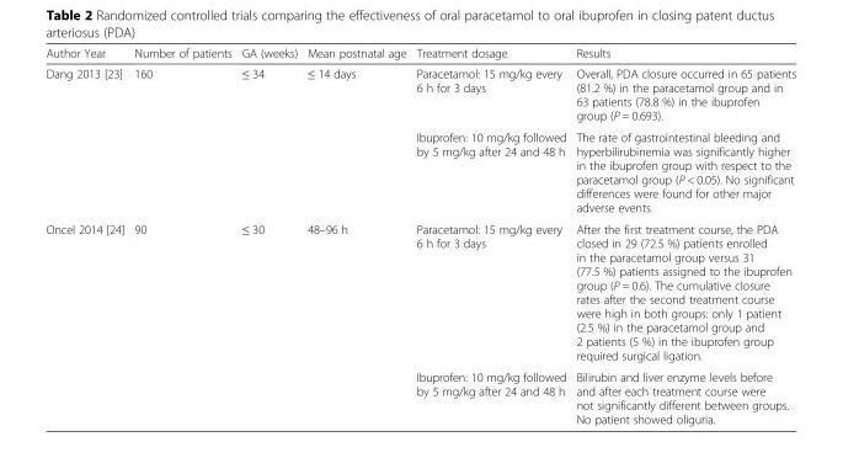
<table><thead><tr><td>Author Year</td><td>Number of patients</td><td>GA (weeks)</td><td>Mean postnatal age</td><td>Treatment dosage</td><td>Results</td></tr></thead><tbody><tr><td rowspan="2">Dang 2013 [23]</td><td rowspan="2">160</td><td rowspan="2">≤ 34</td><td rowspan="2">≤ 14 days</td><td>Paracetamol: 15 mg/kg every 6 h for 3 days</td><td>Overall, PDA closure occurred in 65 patients (81.2 %) in the paracetamol group and in 63 patients (78.8 %) in the ibuprofen group (P = 0.693).</td></tr><tr><td>Ibuprofen: 10 mg/kg followed by 5 mg/kg after 24 and 48 h</td><td>The rate of gastrointestinal bleeding and hyperbilirubinemia was significantly higher in the ibuprofen group with respect to the paracetamol group (P &lt; 0.05). No significant differences were found for other major adverse events.</td></tr><tr><td rowspan="2">Oncel 2014 [24]</td><td rowspan="2">90</td><td rowspan="2">≤ 30</td><td rowspan="2">48–96 h</td><td>Paracetamol: 15 mg/kg every 6 h for 3 days</td><td>After the first treatment course, the PDA closed in 29 (72.5 %) patients enrolled in the paracetamol group versus 31 (77.5 %) patients assigned to the ibuprofen group (P = 0.6). The cumulative closure rates after the second treatment course were high in both groups: only 1 patient (2.5 %) in the paracetamol group and 2 patients (5 %) in the ibuprofen group required surgical ligation.</td></tr><tr><td>Ibuprofen: 10 mg/kg followed by 5 mg/kg after 24 and 48 h</td><td>Bilirubin and liver enzyme levels before and after each treatment course were not significantly different between groups. No patient showed oliguria.</td></tr></tbody></table>